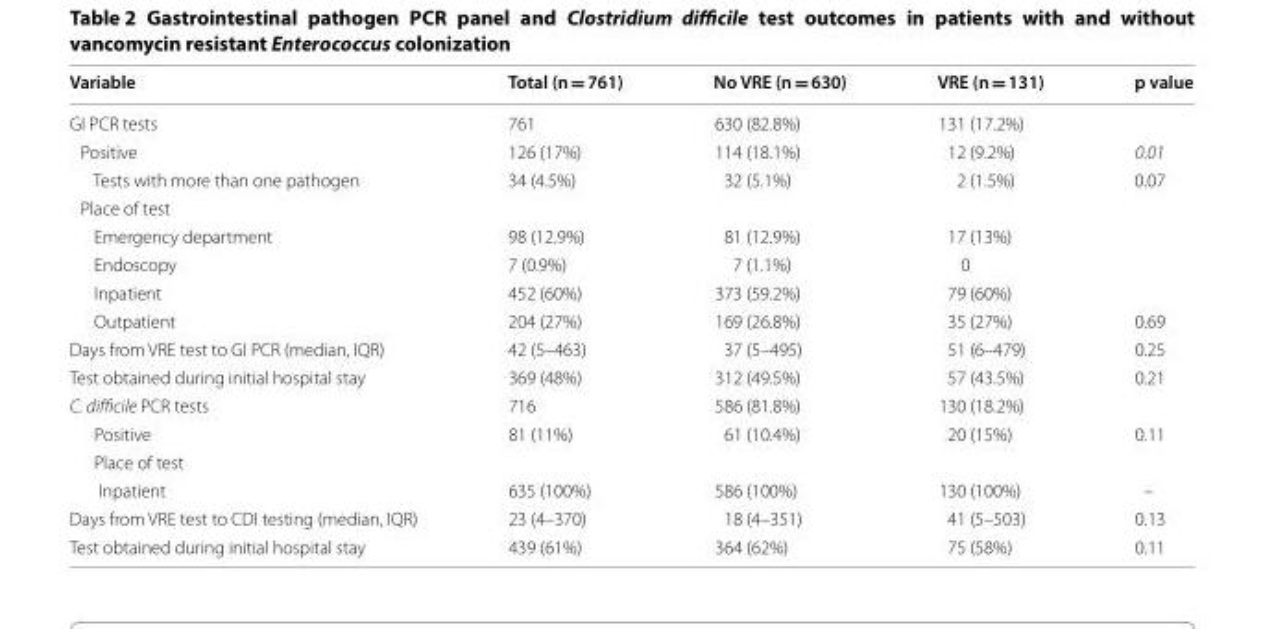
<table><thead><tr><td>Variable</td><td>Total (n = 761)</td><td>No VRE (n = 630)</td><td>VRE (n = 131)</td><td>p value</td></tr></thead><tbody><tr><td>GI PCR tests</td><td>761</td><td>630 (82.8%)</td><td>131 (17.2%)</td><td></td></tr><tr><td>Positive</td><td>126 (17%)</td><td>114 (18.1%)</td><td>12 (9.2%)</td><td>0.01</td></tr><tr><td>Tests with more than one pathogen</td><td>34 (4.5%)</td><td>32 (5.1%)</td><td>2 (1.5%)</td><td>0.07</td></tr><tr><td colspan="5">Place of test</td></tr><tr><td>Emergency department</td><td>98 (12.9%)</td><td>81 (12.9%)</td><td>17 (13%)</td><td></td></tr><tr><td>Endoscopy</td><td>7 (0.9%)</td><td>7 (1.1%)</td><td>0</td><td></td></tr><tr><td>Inpatient</td><td>452 (60%)</td><td>373 (59.2%)</td><td>79 (60%)</td><td></td></tr><tr><td>Outpatient</td><td>204 (27%)</td><td>169 (26.8%)</td><td>35 (27%)</td><td>0.69</td></tr><tr><td>Days from VRE test to GI PCR (median, IQR)</td><td>42 (5–463)</td><td>37 (5–495)</td><td>51 (6–479)</td><td>0.25</td></tr><tr><td>Test obtained during initial hospital stay</td><td>369 (48%)</td><td>312 (49.5%)</td><td>57 (43.5%)</td><td>0.21</td></tr><tr><td>C. difficile PCR tests</td><td>716</td><td>586 (81.8%)</td><td>130 (18.2%)</td><td></td></tr><tr><td>Positive</td><td>81 (11%)</td><td>61 (10.4%)</td><td>20 (15%)</td><td>0.11</td></tr><tr><td colspan="5">Place of test</td></tr><tr><td>Inpatient</td><td>635 (100%)</td><td>586 (100%)</td><td>130 (100%)</td><td>–</td></tr><tr><td>Days from VRE test to CDI testing (median, IQR)</td><td>23 (4–370)</td><td>18 (4–351)</td><td>41 (5–503)</td><td>0.13</td></tr><tr><td>Test obtained during initial hospital stay</td><td>439 (61%)</td><td>364 (62%)</td><td>75 (58%)</td><td>0.11</td></tr></tbody></table>